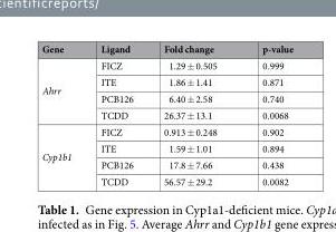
<table><thead><tr><td>Gene</td><td>Ligand</td><td>Fold change</td><td>p-value</td></tr></thead><tbody><tr><td rowspan="4">Ahrr</td><td>FICZ</td><td>1.29 ± 0.505</td><td>0.999</td></tr><tr><td>ITE</td><td>1.86 ± 1.41</td><td>0.871</td></tr><tr><td>PCB126</td><td>6.40 ± 2.58</td><td>0.740</td></tr><tr><td>TCDD</td><td>26.37 ± 13.1</td><td>0.0068</td></tr><tr><td rowspan="4">Cyp1b1</td><td>FICZ</td><td>0.913 ± 0.248</td><td>0.902</td></tr><tr><td>ITE</td><td>1.59 ± 1.01</td><td>0.894</td></tr><tr><td>PCB126</td><td>17.8 ± 7.66</td><td>0.438</td></tr><tr><td>TCDD</td><td>56.57 ± 29.2</td><td>0.0082</td></tr></tbody></table>